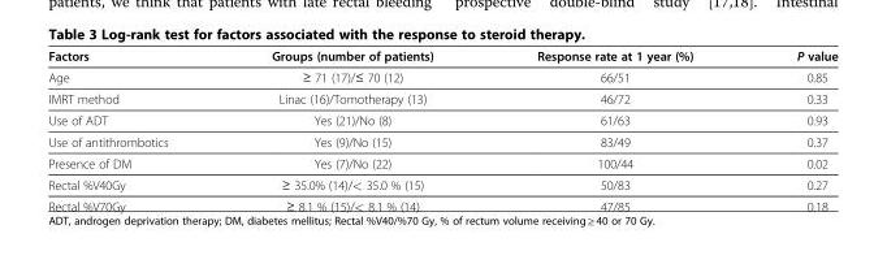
<table><thead><tr><td>Factors</td><td>Groups (number of patients)</td><td>Response rate at 1 year (%)</td><td>P value</td></tr></thead><tbody><tr><td>Age</td><td>≥ 71 (17)/≤ 70 (12)</td><td>66/51</td><td>0.85</td></tr><tr><td>IMRT method</td><td>Linac (16)/Tomotherapy (13)</td><td>46/72</td><td>0.33</td></tr><tr><td>Use of ADT</td><td>Yes (21)/No (8)</td><td>61/63</td><td>0.93</td></tr><tr><td>Use of antithrombotics</td><td>Yes (9)/No (15)</td><td>83/49</td><td>0.37</td></tr><tr><td>Presence of DM</td><td>Yes (7)/No (22)</td><td>100/44</td><td>0.02</td></tr><tr><td>Rectal %V40Gy</td><td>≥ 35.0% (14)/&lt; 35.0 % (15)</td><td>50/83</td><td>0.27</td></tr><tr><td>Rectal %V70Gy</td><td>≥ 8.1 % (15)/&lt; 8.1 % (14)</td><td>47/85</td><td>0.18</td></tr></tbody></table>